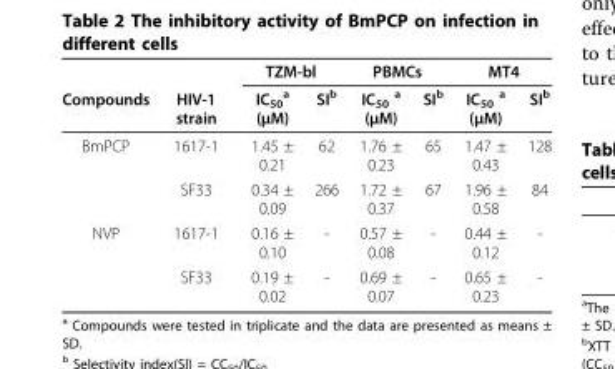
<table><thead><tr><td rowspan="2">Compounds</td><td rowspan="2">HIV-1 strain</td><td colspan="2">TZM-bl</td><td colspan="2">PBMCs</td><td colspan="2">MT4</td></tr><tr><td>IC<sub>50</sub> <sup>a</sup> (μM)</td><td>SI<sup>b</sup></td><td>IC<sub>50</sub> <sup>a</sup> (μM)</td><td>SI<sup>b</sup></td><td>IC<sub>50</sub> <sup>a</sup> (μM)</td><td>SI<sup>b</sup></td></tr></thead><tbody><tr><td rowspan="2">BmPCP</td><td>1617-1</td><td>1.45 ± 0.21</td><td>62</td><td>1.76 ± 0.23</td><td>65</td><td>1.47 ± 0.43</td><td>128</td></tr><tr><td>SF33</td><td>0.34 ± 0.09</td><td>266</td><td>1.72 ± 0.37</td><td>67</td><td>1.96 ± 0.58</td><td>84</td></tr><tr><td rowspan="2">NVP</td><td>1617-1</td><td>0.16 ± 0.10</td><td>-</td><td>0.57 ± 0.08</td><td>-</td><td>0.44 ± 0.12</td><td>-</td></tr><tr><td>SF33</td><td>0.19 ± 0.02</td><td>-</td><td>0.69 ± 0.07</td><td>-</td><td>0.65 ± 0.23</td><td>-</td></tr></tbody></table>